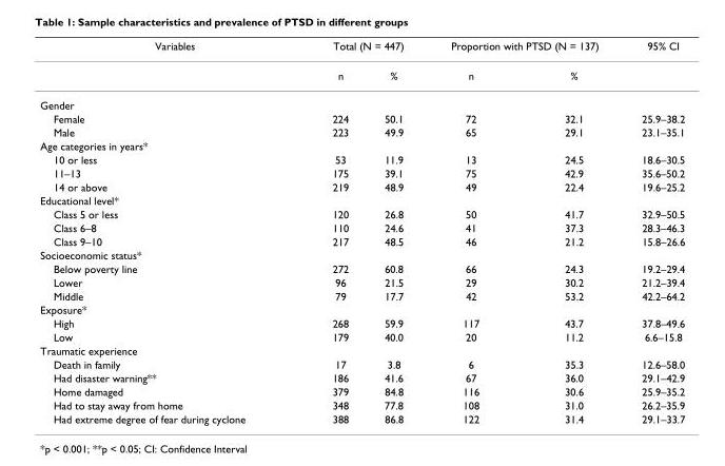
<table><thead><tr><td rowspan="2">Variables</td><td colspan="2">Total (N = 447)</td><td colspan="2">Proportion with PTSD (N = 137)</td><td rowspan="2">95% CI</td></tr><tr><td>n</td><td>%</td><td>n</td><td>%</td></tr></thead><tbody><tr><td colspan="6">Gender</td></tr><tr><td>Female</td><td>224</td><td>50.1</td><td>72</td><td>32.1</td><td>25.9–38.2</td></tr><tr><td>Male</td><td>223</td><td>49.9</td><td>65</td><td>29.1</td><td>23.1–35.1</td></tr><tr><td colspan="6">Age categories in years*</td></tr><tr><td>10 or less</td><td>53</td><td>11.9</td><td>13</td><td>24.5</td><td>18.6–30.5</td></tr><tr><td>11–13</td><td>175</td><td>39.1</td><td>75</td><td>42.9</td><td>35.6–50.2</td></tr><tr><td>14 or above</td><td>219</td><td>48.9</td><td>49</td><td>22.4</td><td>19.6–25.2</td></tr><tr><td colspan="6">Educational level*</td></tr><tr><td>Class 5 or less</td><td>120</td><td>26.8</td><td>50</td><td>41.7</td><td>32.9–50.5</td></tr><tr><td>Class 6–8</td><td>110</td><td>24.6</td><td>41</td><td>37.3</td><td>28.3–46.3</td></tr><tr><td>Class 9–10</td><td>217</td><td>48.5</td><td>46</td><td>21.2</td><td>15.8–26.6</td></tr><tr><td colspan="6">Socioeconomic status*</td></tr><tr><td>Below poverty line</td><td>272</td><td>60.8</td><td>66</td><td>24.3</td><td>19.2–29.4</td></tr><tr><td>Lower</td><td>96</td><td>21.5</td><td>29</td><td>30.2</td><td>21.2–39.4</td></tr><tr><td>Middle</td><td>79</td><td>17.7</td><td>42</td><td>53.2</td><td>42.2–64.2</td></tr><tr><td colspan="6">Exposure*</td></tr><tr><td>High</td><td>268</td><td>59.9</td><td>117</td><td>43.7</td><td>37.8–49.6</td></tr><tr><td>Low</td><td>179</td><td>40.0</td><td>20</td><td>11.2</td><td>6.6–15.8</td></tr><tr><td colspan="6">Traumatic experience</td></tr><tr><td>Death in family</td><td>17</td><td>3.8</td><td>6</td><td>35.3</td><td>12.6–58.0</td></tr><tr><td>Had disaster warning**</td><td>186</td><td>41.6</td><td>67</td><td>36.0</td><td>29.1–42.9</td></tr><tr><td>Home damaged</td><td>379</td><td>84.8</td><td>116</td><td>30.6</td><td>25.9–35.2</td></tr><tr><td>Had to stay away from home</td><td>348</td><td>77.8</td><td>108</td><td>31.0</td><td>26.2–35.9</td></tr><tr><td>Had extreme degree of fear during cyclone</td><td>388</td><td>86.8</td><td>122</td><td>31.4</td><td>29.1–33.7</td></tr></tbody></table>